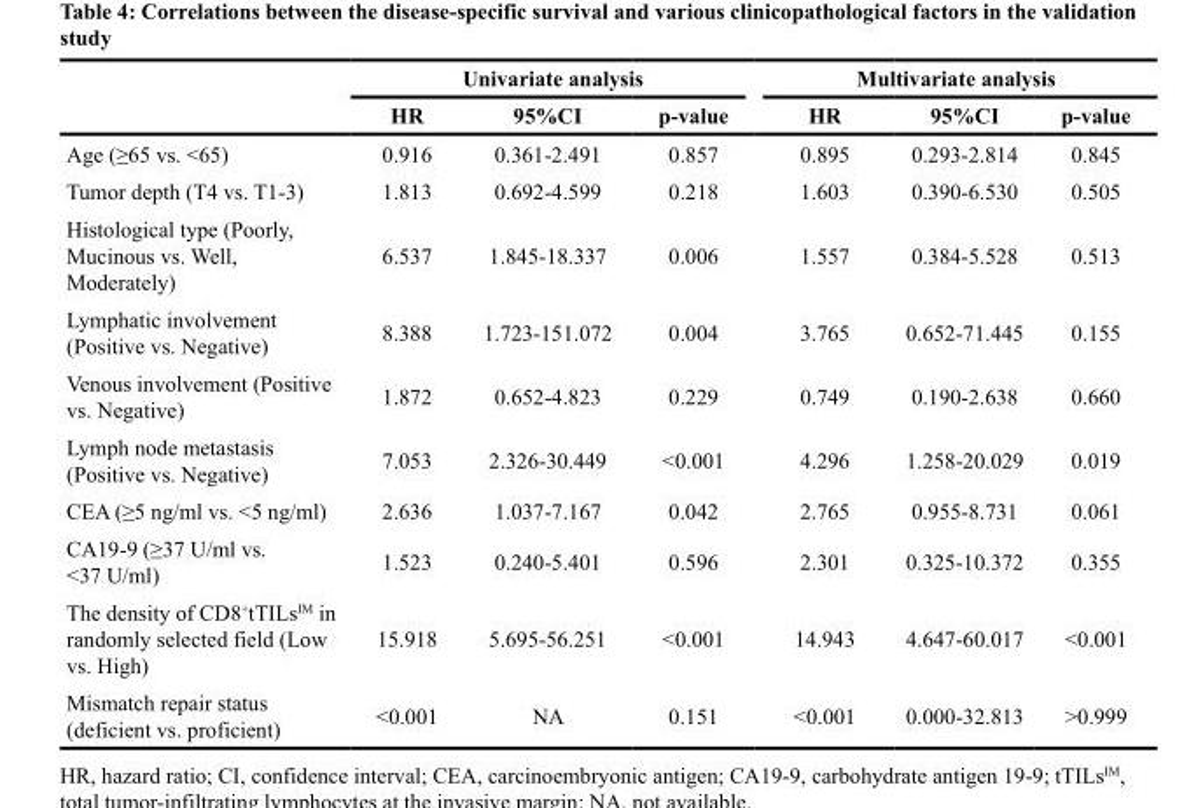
<table><thead><tr><td rowspan="2"></td><td colspan="3">Univariate analysis</td><td colspan="3">Multivariate analysis</td></tr><tr><td>HR</td><td>95%CI</td><td>p-value</td><td>HR</td><td>95%CI</td><td>p-value</td></tr></thead><tbody><tr><td>Age (≥65 vs. &lt;65)</td><td>0.916</td><td>0.361-2.491</td><td>0.857</td><td>0.895</td><td>0.293-2.814</td><td>0.845</td></tr><tr><td>Tumor depth (T4 vs. T1-3)</td><td>1.813</td><td>0.692-4.599</td><td>0.218</td><td>1.603</td><td>0.390-6.530</td><td>0.505</td></tr><tr><td>Histological type (Poorly, Mucinous vs. Well, Moderately)</td><td>6.537</td><td>1.845-18.337</td><td>0.006</td><td>1.557</td><td>0.384-5.528</td><td>0.513</td></tr><tr><td>Lymphatic involvement (Positive vs. Negative)</td><td>8.388</td><td>1.723-151.072</td><td>0.004</td><td>3.765</td><td>0.652-71.445</td><td>0.155</td></tr><tr><td>Venous involvement (Positive vs. Negative)</td><td>1.872</td><td>0.652-4.823</td><td>0.229</td><td>0.749</td><td>0.190-2.638</td><td>0.660</td></tr><tr><td>Lymph node metastasis (Positive vs. Negative)</td><td>7.053</td><td>2.326-30.449</td><td>&lt;0.001</td><td>4.296</td><td>1.258-20.029</td><td>0.019</td></tr><tr><td>CEA (≥5 ng/ml vs. &lt;5 ng/ml)</td><td>2.636</td><td>1.037-7.167</td><td>0.042</td><td>2.765</td><td>0.955-8.731</td><td>0.061</td></tr><tr><td>CA19-9 (≥37 U/ml vs. &lt;37 U/ml)</td><td>1.523</td><td>0.240-5.401</td><td>0.596</td><td>2.301</td><td>0.325-10.372</td><td>0.355</td></tr><tr><td>The density of CD8<sup>+</sup>tTILs<sup>IM</sup> in randomly selected field (Low vs. High)</td><td>15.918</td><td>5.695-56.251</td><td>&lt;0.001</td><td>14.943</td><td>4.647-60.017</td><td>&lt;0.001</td></tr><tr><td>Mismatch repair status (deficient vs. proficient)</td><td>&lt;0.001</td><td>NA</td><td>0.151</td><td>&lt;0.001</td><td>0.000-32.813</td><td>&gt;0.999</td></tr></tbody></table>